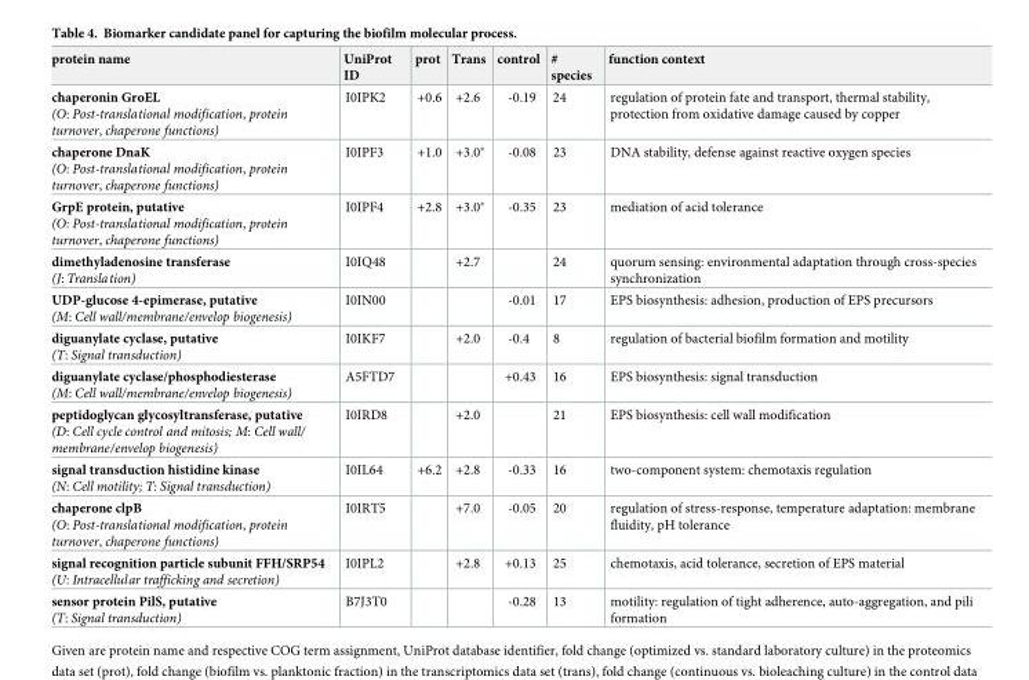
<table><thead><tr><td>protein name</td><td>UniProt ID</td><td>prot</td><td>Trans</td><td>control</td><td># species</td><td>function context</td></tr></thead><tbody><tr><td>chaperonin GroEL (O: Post-translational modification, protein turnover, chaperone functions)</td><td>I0IPK2</td><td>+0.6</td><td>+2.6</td><td>-0.19</td><td>24</td><td>regulation of protein fate and transport, thermal stability, protection from oxidative damage caused by copper</td></tr><tr><td>chaperone DnaK (O: Post-translational modification, protein turnover, chaperone functions)</td><td>I0IPF3</td><td>+1.0</td><td>+3.0*</td><td>-0.08</td><td>23</td><td>DNA stability, defense against reactive oxygen species</td></tr><tr><td>GrpE protein, putative (O: Post-translational modification, protein turnover, chaperone functions)</td><td>I0IPF4</td><td>+2.8</td><td>+3.0*</td><td>-0.35</td><td>23</td><td>mediation of acid tolerance</td></tr><tr><td>dimethyladenosine transferase (J: Translation)</td><td>I0IQ48</td><td></td><td>+2.7</td><td></td><td>24</td><td>quorum sensing: environmental adaptation through cross-species synchronization</td></tr><tr><td>UDP-glucose 4-epimerase, putative (M: Cell wall/membrane/envelop biogenesis)</td><td>I0IN00</td><td></td><td></td><td>-0.01</td><td>17</td><td>EPS biosynthesis: adhesion, production of EPS precursors</td></tr><tr><td>diguanylate cyclase, putative (T: Signal transduction)</td><td>I0IKF7</td><td></td><td>+2.0</td><td>-0.4</td><td>8</td><td>regulation of bacterial biofilm formation and motility</td></tr><tr><td>diguanylate cyclase/phosphodiesterase (M: Cell wall/membrane/envelop biogenesis)</td><td>A5FTD7</td><td></td><td></td><td>+0.43</td><td>16</td><td>EPS biosynthesis: signal transduction</td></tr><tr><td>peptidoglycan glycosyltransferase, putative (D: Cell cycle control and mitosis; M: Cell wall/ membrane/envelop biogenesis)</td><td>I0IRD8</td><td></td><td>+2.0</td><td></td><td>21</td><td>EPS biosynthesis: cell wall modification</td></tr><tr><td>signal transduction histidine kinase (N: Cell motility; T: Signal transduction)</td><td>I0IL64</td><td>+6.2</td><td>+2.8</td><td>-0.33</td><td>16</td><td>two-component system: chemotaxis regulation</td></tr><tr><td>chaperone clpB (O: Post-translational modification, protein turnover, chaperone functions)</td><td>I0IRT5</td><td></td><td>+7.0</td><td>-0.05</td><td>20</td><td>regulation of stress-response, temperature adaptation: membrane fluidity, pH tolerance</td></tr><tr><td>signal recognition particle subunit FFH/SRP54 (U: Intracellular trafficking and secretion)</td><td>I0IPL2</td><td></td><td>+2.8</td><td>+0.13</td><td>25</td><td>chemotaxis, acid tolerance, secretion of EPS material</td></tr><tr><td>sensor protein PilS, putative (T: Signal transduction)</td><td>B7J3T0</td><td></td><td></td><td>-0.28</td><td>13</td><td>motility: regulation of tight adherence, auto-aggregation, and pili formation</td></tr></tbody></table>